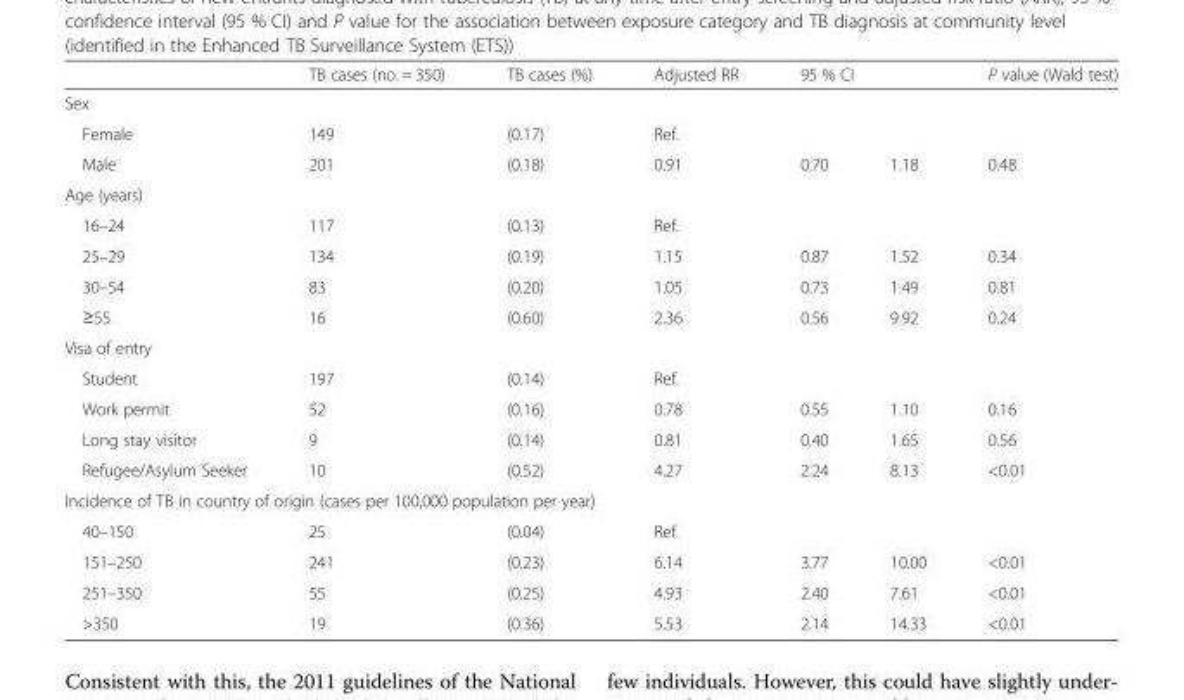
<table><thead><tr><td rowspan="3">Sex Female</td><td rowspan="3">TB cases (no. = 350) 149</td><td rowspan="3">TB cases (%) (0.17)</td><td rowspan="3">Adjusted RR Ref.</td><td rowspan="2" colspan="2">95 % CI</td><td rowspan="3">P value (Wald test)</td></tr><tr></tr><tr><td></td><td></td></tr></thead><tbody><tr><td>Male</td><td>201</td><td>(0.18)</td><td>0.91</td><td>0.70</td><td>1.18</td><td>0.48</td></tr><tr><td colspan="7">Age (years)</td></tr><tr><td>16–24</td><td>117</td><td>(0.13)</td><td>Ref.</td><td></td><td></td><td></td></tr><tr><td>25–29</td><td>134</td><td>(0.19)</td><td>1.15</td><td>0.87</td><td>1.52</td><td>0.34</td></tr><tr><td>30–54</td><td>83</td><td>(0.20)</td><td>1.05</td><td>0.73</td><td>1.49</td><td>0.81</td></tr><tr><td>≥55</td><td>16</td><td>(0.60)</td><td>2.36</td><td>0.56</td><td>9.92</td><td>0.24</td></tr><tr><td colspan="7">Visa of entry</td></tr><tr><td>Student</td><td>197</td><td>(0.14)</td><td>Ref.</td><td></td><td></td><td></td></tr><tr><td>Work permit</td><td>52</td><td>(0.16)</td><td>0.78</td><td>0.55</td><td>1.10</td><td>0.16</td></tr><tr><td>Long stay visitor</td><td>9</td><td>(0.14)</td><td>0.81</td><td>0.40</td><td>1.65</td><td>0.56</td></tr><tr><td>Refugee/Asylum Seeker</td><td>10</td><td>(0.52)</td><td>4.27</td><td>2.24</td><td>8.13</td><td>&lt;0.01</td></tr><tr><td colspan="7">Incidence of TB in country of origin (cases per 100,000 population per year)</td></tr><tr><td>40–150</td><td>25</td><td>(0.04)</td><td>Ref.</td><td></td><td></td><td></td></tr><tr><td>151–250</td><td>241</td><td>(0.23)</td><td>6.14</td><td>3.77</td><td>10.00</td><td>&lt;0.01</td></tr><tr><td>251–350</td><td>55</td><td>(0.25)</td><td>4.93</td><td>2.40</td><td>7.61</td><td>&lt;0.01</td></tr><tr><td>&gt;350</td><td>19</td><td>(0.36)</td><td>5.53</td><td>2.14</td><td>14.33</td><td>&lt;0.01</td></tr></tbody></table>